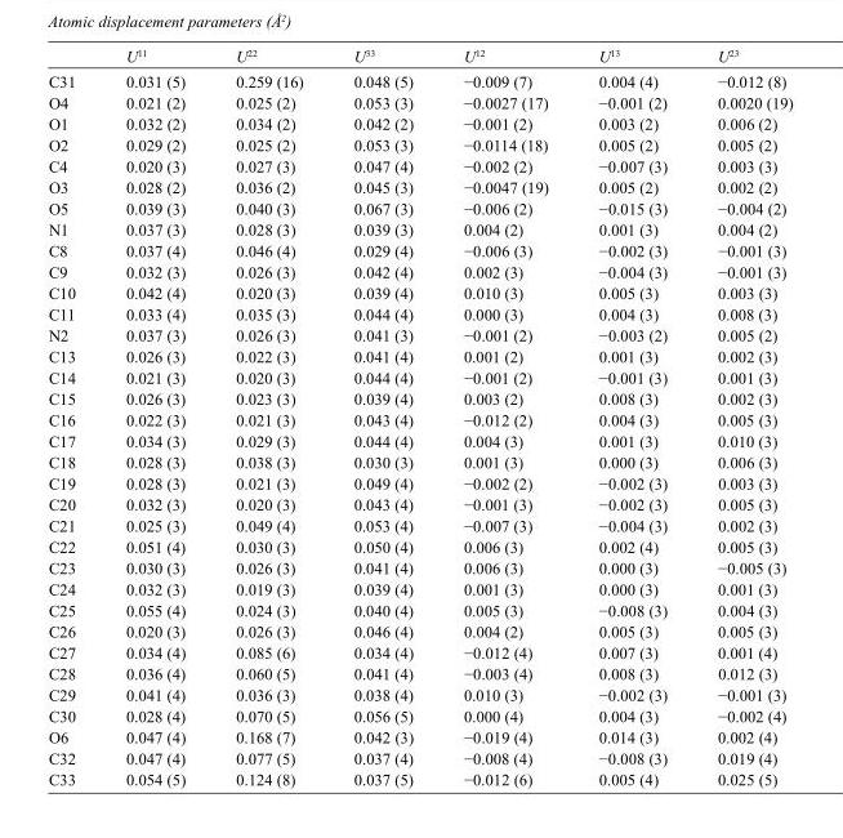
<table><thead><tr><td></td><td>U<sup>11</sup></td><td>U<sup>22</sup></td><td>U<sup>33</sup></td><td>U<sup>12</sup></td><td>U<sup>13</sup></td><td>U<sup>23</sup></td></tr></thead><tbody><tr><td>C31</td><td>0.031 (5)</td><td>0.259 (16)</td><td>0.048 (5)</td><td>−0.009 (7)</td><td>0.004 (4)</td><td>−0.012 (8)</td></tr><tr><td>O4</td><td>0.021 (2)</td><td>0.025 (2)</td><td>0.053 (3)</td><td>−0.0027 (17)</td><td>−0.001 (2)</td><td>0.0020 (19)</td></tr><tr><td>O1</td><td>0.032 (2)</td><td>0.034 (2)</td><td>0.042 (2)</td><td>−0.001 (2)</td><td>0.003 (2)</td><td>0.006 (2)</td></tr><tr><td>O2</td><td>0.029 (2)</td><td>0.025 (2)</td><td>0.053 (3)</td><td>−0.0114 (18)</td><td>0.005 (2)</td><td>0.005 (2)</td></tr><tr><td>C4</td><td>0.020 (3)</td><td>0.027 (3)</td><td>0.047 (4)</td><td>−0.002 (2)</td><td>−0.007 (3)</td><td>0.003 (3)</td></tr><tr><td>O3</td><td>0.028 (2)</td><td>0.036 (2)</td><td>0.045 (3)</td><td>−0.0047 (19)</td><td>0.005 (2)</td><td>0.002 (2)</td></tr><tr><td>O5</td><td>0.039 (3)</td><td>0.040 (3)</td><td>0.067 (3)</td><td>−0.006 (2)</td><td>−0.015 (3)</td><td>−0.004 (2)</td></tr><tr><td>N1</td><td>0.037 (3)</td><td>0.028 (3)</td><td>0.039 (3)</td><td>0.004 (2)</td><td>0.001 (3)</td><td>0.004 (2)</td></tr><tr><td>C8</td><td>0.037 (4)</td><td>0.046 (4)</td><td>0.029 (4)</td><td>−0.006 (3)</td><td>−0.002 (3)</td><td>−0.001 (3)</td></tr><tr><td>C9</td><td>0.032 (3)</td><td>0.026 (3)</td><td>0.042 (4)</td><td>0.002 (3)</td><td>−0.004 (3)</td><td>−0.001 (3)</td></tr><tr><td>C10</td><td>0.042 (4)</td><td>0.020 (3)</td><td>0.039 (4)</td><td>0.010 (3)</td><td>0.005 (3)</td><td>0.003 (3)</td></tr><tr><td>C11</td><td>0.033 (4)</td><td>0.035 (3)</td><td>0.044 (4)</td><td>0.000 (3)</td><td>0.004 (3)</td><td>0.008 (3)</td></tr><tr><td>N2</td><td>0.037 (3)</td><td>0.026 (3)</td><td>0.041 (3)</td><td>−0.001 (2)</td><td>−0.003 (2)</td><td>0.005 (2)</td></tr><tr><td>C13</td><td>0.026 (3)</td><td>0.022 (3)</td><td>0.041 (4)</td><td>0.001 (2)</td><td>0.001 (3)</td><td>0.002 (3)</td></tr><tr><td>C14</td><td>0.021 (3)</td><td>0.020 (3)</td><td>0.044 (4)</td><td>−0.001 (2)</td><td>−0.001 (3)</td><td>0.001 (3)</td></tr><tr><td>C15</td><td>0.026 (3)</td><td>0.023 (3)</td><td>0.039 (4)</td><td>0.003 (2)</td><td>0.008 (3)</td><td>0.002 (3)</td></tr><tr><td>C16</td><td>0.022 (3)</td><td>0.021 (3)</td><td>0.043 (4)</td><td>−0.012 (2)</td><td>0.004 (3)</td><td>0.005 (3)</td></tr><tr><td>C17</td><td>0.034 (3)</td><td>0.029 (3)</td><td>0.044 (4)</td><td>0.004 (3)</td><td>0.001 (3)</td><td>0.010 (3)</td></tr><tr><td>C18</td><td>0.028 (3)</td><td>0.038 (3)</td><td>0.030 (3)</td><td>0.001 (3)</td><td>0.000 (3)</td><td>0.006 (3)</td></tr><tr><td>C19</td><td>0.028 (3)</td><td>0.021 (3)</td><td>0.049 (4)</td><td>−0.002 (2)</td><td>−0.002 (3)</td><td>0.003 (3)</td></tr><tr><td>C20</td><td>0.032 (3)</td><td>0.020 (3)</td><td>0.043 (4)</td><td>−0.001 (3)</td><td>−0.002 (3)</td><td>0.005 (3)</td></tr><tr><td>C21</td><td>0.025 (3)</td><td>0.049 (4)</td><td>0.053 (4)</td><td>−0.007 (3)</td><td>−0.004 (3)</td><td>0.002 (3)</td></tr><tr><td>C22</td><td>0.051 (4)</td><td>0.030 (3)</td><td>0.050 (4)</td><td>0.006 (3)</td><td>0.002 (4)</td><td>0.005 (3)</td></tr><tr><td>C23</td><td>0.030 (3)</td><td>0.026 (3)</td><td>0.041 (4)</td><td>0.006 (3)</td><td>0.000 (3)</td><td>−0.005 (3)</td></tr><tr><td>C24</td><td>0.032 (3)</td><td>0.019 (3)</td><td>0.039 (4)</td><td>0.001 (3)</td><td>0.000 (3)</td><td>0.001 (3)</td></tr><tr><td>C25</td><td>0.055 (4)</td><td>0.024 (3)</td><td>0.040 (4)</td><td>0.005 (3)</td><td>−0.008 (3)</td><td>0.004 (3)</td></tr><tr><td>C26</td><td>0.020 (3)</td><td>0.026 (3)</td><td>0.046 (4)</td><td>0.004 (2)</td><td>0.005 (3)</td><td>0.005 (3)</td></tr><tr><td>C27</td><td>0.034 (4)</td><td>0.085 (6)</td><td>0.034 (4)</td><td>−0.012 (4)</td><td>0.007 (3)</td><td>0.001 (4)</td></tr><tr><td>C28</td><td>0.036 (4)</td><td>0.060 (5)</td><td>0.041 (4)</td><td>−0.003 (4)</td><td>0.008 (3)</td><td>0.012 (3)</td></tr><tr><td>C29</td><td>0.041 (4)</td><td>0.036 (3)</td><td>0.038 (4)</td><td>0.010 (3)</td><td>−0.002 (3)</td><td>−0.001 (3)</td></tr><tr><td>C30</td><td>0.028 (4)</td><td>0.070 (5)</td><td>0.056 (5)</td><td>0.000 (4)</td><td>0.004 (3)</td><td>−0.002 (4)</td></tr><tr><td>O6</td><td>0.047 (4)</td><td>0.168 (7)</td><td>0.042 (3)</td><td>−0.019 (4)</td><td>0.014 (3)</td><td>0.002 (4)</td></tr><tr><td>C32</td><td>0.047 (4)</td><td>0.077 (5)</td><td>0.037 (4)</td><td>−0.008 (4)</td><td>−0.008 (3)</td><td>0.019 (4)</td></tr><tr><td>C33</td><td>0.054 (5)</td><td>0.124 (8)</td><td>0.037 (5)</td><td>−0.012 (6)</td><td>0.005 (4)</td><td>0.025 (5)</td></tr></tbody></table>